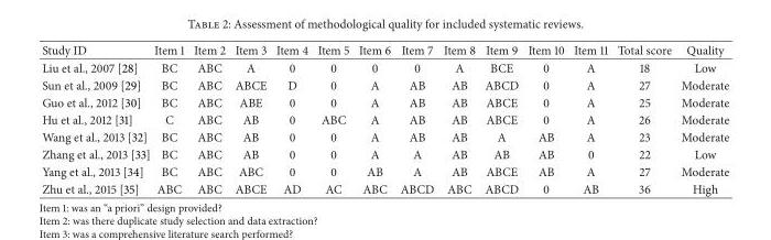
<table><thead><tr><td>Study ID</td><td>Item 1</td><td>Item 2</td><td>Item 3</td><td>Item 4</td><td>Item 5</td><td>Item 6</td><td>Item 7</td><td>Item 8</td><td>Item 9</td><td>Item 10</td><td>Item 11</td><td>Total score</td><td>Quality</td></tr></thead><tbody><tr><td>Liu et al., 2007 [28]</td><td>BC</td><td>ABC</td><td>A</td><td>0</td><td>0</td><td>0</td><td>0</td><td>A</td><td>BCE</td><td>0</td><td>A</td><td>18</td><td>Low</td></tr><tr><td>Sun et al., 2009 [29]</td><td>BC</td><td>ABC</td><td>ABCE</td><td>D</td><td>0</td><td>A</td><td>AB</td><td>AB</td><td>ABCD</td><td>0</td><td>A</td><td>27</td><td>Moderate</td></tr><tr><td>Guo et al., 2012 [30]</td><td>BC</td><td>ABC</td><td>ABE</td><td>0</td><td>0</td><td>A</td><td>AB</td><td>AB</td><td>ABCE</td><td>0</td><td>A</td><td>25</td><td>Moderate</td></tr><tr><td>Hu et al., 2012 [31]</td><td>C</td><td>ABC</td><td>AB</td><td>0</td><td>ABC</td><td>A</td><td>AB</td><td>AB</td><td>ABCE</td><td>0</td><td>A</td><td>26</td><td>Moderate</td></tr><tr><td>Wang et al., 2013 [32]</td><td>BC</td><td>ABC</td><td>AB</td><td>0</td><td>0</td><td>A</td><td>AB</td><td>AB</td><td>A</td><td>AB</td><td>A</td><td>23</td><td>Moderate</td></tr><tr><td>Zhang et al., 2013 [33]</td><td>BC</td><td>ABC</td><td>AB</td><td>0</td><td>0</td><td>A</td><td>A</td><td>AB</td><td>AB</td><td>AB</td><td>0</td><td>22</td><td>Low</td></tr><tr><td>Yang et al., 2013 [34]</td><td>BC</td><td>ABC</td><td>ABC</td><td>0</td><td>0</td><td>AB</td><td>A</td><td>AB</td><td>ABCE</td><td>AB</td><td>A</td><td>27</td><td>Moderate</td></tr><tr><td>Zhu et al., 2015 [35]</td><td>ABC</td><td>ABC</td><td>ABCE</td><td>AD</td><td>AC</td><td>ABC</td><td>ABCD</td><td>ABC</td><td>ABCD</td><td>0</td><td>AB</td><td>36</td><td>High</td></tr></tbody></table>